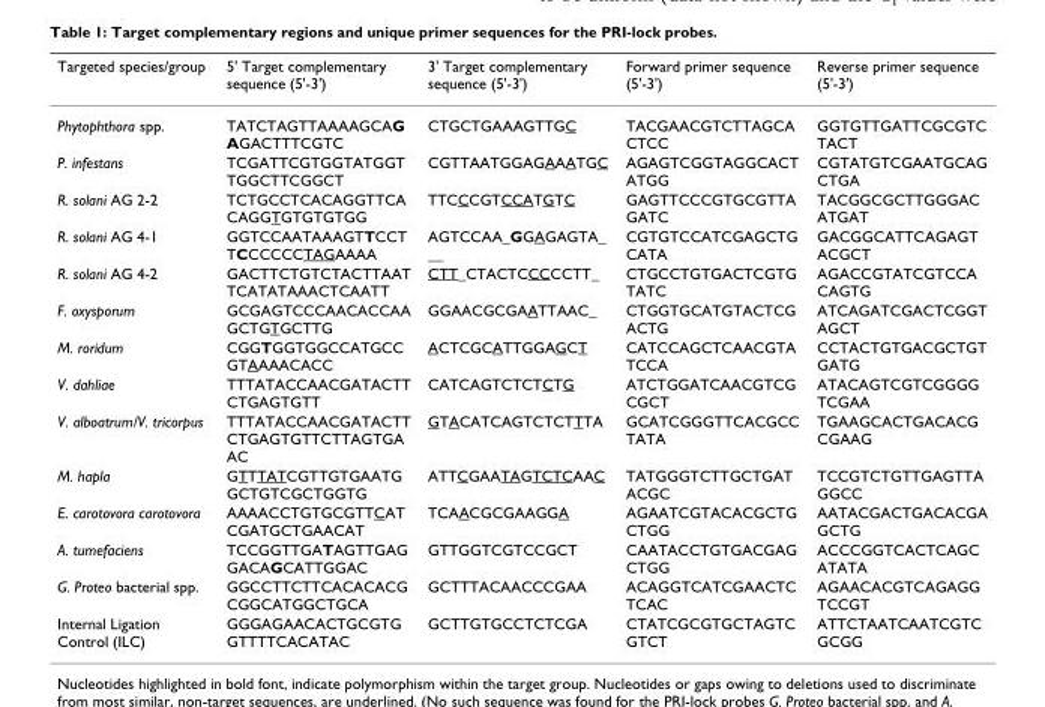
<table><thead><tr><td>Targeted species/group</td><td>5&#x27; Target complementary sequence (5&#x27;-3&#x27;)</td><td>3&#x27; Target complementary sequence (5&#x27;-3&#x27;)</td><td>Forward primer sequence (5&#x27;-3&#x27;)</td><td>Reverse primer sequence (5&#x27;-3&#x27;)</td></tr></thead><tbody><tr><td>Phytophthora spp.</td><td>TATCTAGTTAAAAGCAG AGACTTTCGTC</td><td>CTGCTGAAAGTTGC</td><td>TACGAACGTCTTAGCA CTCC</td><td>GGTGTTGATTCGCGTC TACT</td></tr><tr><td>P. infestans</td><td>TCGATTCGTGGTATGGT TGGCTTCGGCT</td><td>CGTTAATGGAGAAATGC</td><td>AGAGTCGGTAGGCACT ATGG</td><td>CGTATGTCGAATGCAG CTGA</td></tr><tr><td>R. solani AG 2-2</td><td>TCTGCCTCACAGGTTCA CAGGTGTGTGTGG</td><td>TTCCCGTCCATGTC</td><td>GAGTTCCCGTGCGTTA GATC</td><td>TACGGCGCTTGGGAC ATGAT</td></tr><tr><td>R. solani AG 4-1</td><td>GGTCCAATAAAGTTCCT TCCCCCCTAGAAAA</td><td>AGTCCAA_GGAGAGTA_ __</td><td>CGTGTCCATCGAGCTG CATA</td><td>GACGGCATTCAGAGT ACGCT</td></tr><tr><td>R. solani AG 4-2</td><td>GACTTCTGTCTACTTAAT TCATATAAACTCAATT</td><td>CTT_CTACTCCCCCTT_</td><td>CTGCCTGTGACTCGTG TATC</td><td>AGACCGTATCGTCCA CAGTG</td></tr><tr><td>F. oxysporum</td><td>GCGAGTCCCAACACCAA GCTGTGCTTG</td><td>GGAACGCGAATTAAC_</td><td>CTGGTGCATGTACTCG ACTG</td><td>ATCAGATCGACTCGGT AGCT</td></tr><tr><td>M. roridum</td><td>CGGTGGTGGCCATGCC GTAAAACACC</td><td>ACTCGCATTGGAGCT</td><td>CATCCAGCTCAACGTA TCCA</td><td>CCTACTGTGACGCTGT GATG</td></tr><tr><td>V. dahliae</td><td>TTTATACCAACGATACTT CTGAGTGTT</td><td>CATCAGTCTCTCTG</td><td>ATCTGGATCAACGTCG CGCT</td><td>ATACAGTCGTCGGGG TCGAA</td></tr><tr><td>V. alboatrum/V. tricorpus</td><td>TTTATACCAACGATACTT CTGAGTGTTCTTAGTGA AC</td><td>GTACATCAGTCTCTTTA</td><td>GCATCGGGTTCACGCC TATA</td><td>TGAAGCACTGACACG CGAAG</td></tr><tr><td>M. hapla</td><td>GTTTATCGTTGTGAATG GCTGTCGCTGGTG</td><td>ATTCGAATAGTCTCAAC</td><td>TATGGGTCTTGCTGAT ACGC</td><td>TCCGTCTGTTGAGTTA GGCC</td></tr><tr><td>E. carotovora carotovora</td><td>AAAACCTGTGCGTTCAT CGATGCTGAACAT</td><td>TCAACGCGAAGGA</td><td>AGAATCGTACACGCTG CTGG</td><td>AATACGACTGACACGA GCTG</td></tr><tr><td>A. tumefaciens</td><td>TCCGGTTGATAGTTGAG GACAGCATTGGAC</td><td>GTTGGTCGTCCGCT</td><td>CAATACCTGTGACGAG CTGG</td><td>ACCCGGTCACTCAGC ATATA</td></tr><tr><td>G. Proteo bacterial spp.</td><td>GGCCTTCTTCACACACG CGGCATGGCTGCA</td><td>GCTTTACAACCCGAA</td><td>ACAGGTCATCGAACTC TCAC</td><td>AGAACACGTCAGAGG TCCGT</td></tr><tr><td>Internal Ligation Control (ILC)</td><td>GGGAGAACACTGCGTG GTTTTCACATAC</td><td>GCTTGTGCCTCTCGA</td><td>CTATCGCGTGCTAGTC GTCT</td><td>ATTCTAATCAATCGTC GCGG</td></tr></tbody></table>